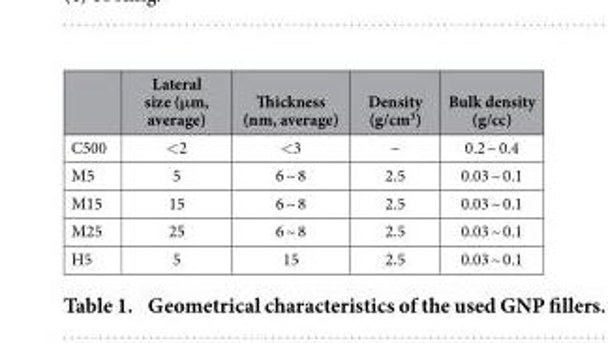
<table><thead><tr><td></td><td>Lateral size (μm, average)</td><td>Thickness (nm, average)</td><td>Density (g/cm<sup>3</sup>)</td><td>Bulk density (g/cc)</td></tr></thead><tbody><tr><td>C500</td><td>&lt; 2</td><td>&lt; 3</td><td>–</td><td>0.2 ~ 0.4</td></tr><tr><td>M5</td><td>5</td><td>6 ~ 8</td><td>2.5</td><td>0.03 ~ 0.1</td></tr><tr><td>M15</td><td>15</td><td>6 ~ 8</td><td>2.5</td><td>0.03 ~ 0.1</td></tr><tr><td>M25</td><td>25</td><td>6 ~ 8</td><td>2.5</td><td>0.03 ~ 0.1</td></tr><tr><td>H5</td><td>5</td><td>15</td><td>2.5</td><td>0.03 ~ 0.1</td></tr></tbody></table>